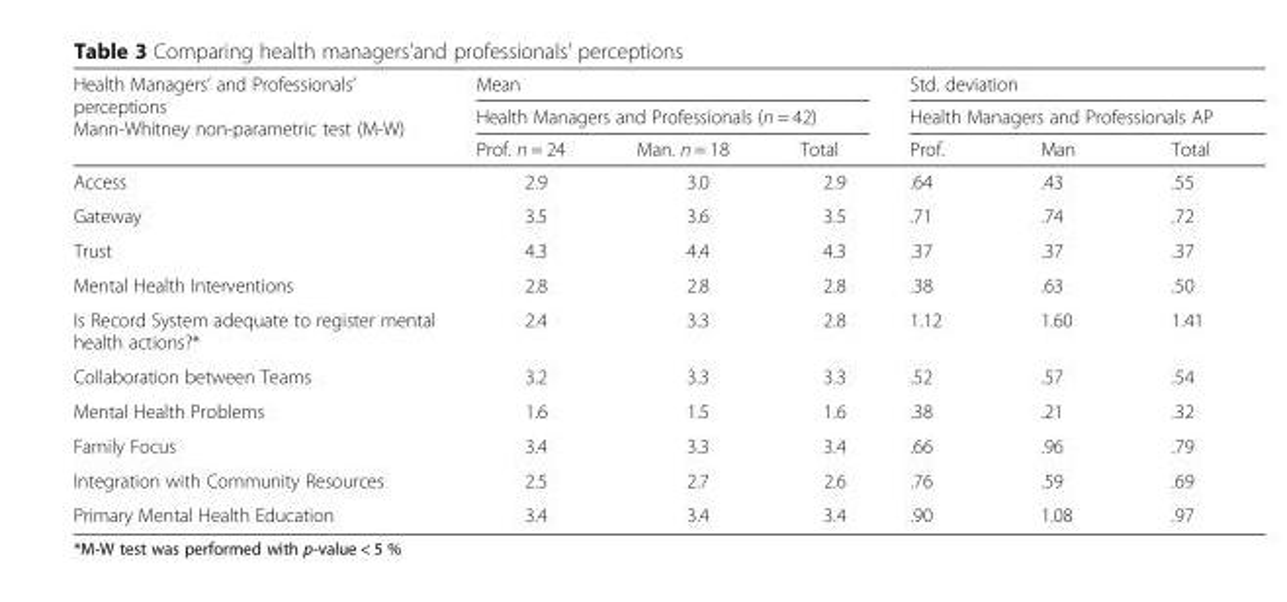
<table><thead><tr><td rowspan="3">Health Managers’ and Professionals’ perceptions Mann-Whitney non-parametric test (M-W)</td><td rowspan="2" colspan="3">Mean Health Managers and Professionals (n = 42)</td><td rowspan="2" colspan="3">Std. deviation Health Managers and Professionals AP</td></tr><tr></tr><tr><td>Prof. n = 24</td><td>Man. n = 18</td><td>Total</td><td>Prof.</td><td>Man</td><td>Total</td></tr></thead><tbody><tr><td>Access</td><td>2.9</td><td>3.0</td><td>2.9</td><td>.64</td><td>.43</td><td>.55</td></tr><tr><td>Gateway</td><td>3.5</td><td>3.6</td><td>3.5</td><td>.71</td><td>.74</td><td>.72</td></tr><tr><td>Trust</td><td>4.3</td><td>4.4</td><td>4.3</td><td>.37</td><td>.37</td><td>.37</td></tr><tr><td>Mental Health Interventions</td><td>2.8</td><td>2.8</td><td>2.8</td><td>.38</td><td>.63</td><td>.50</td></tr><tr><td>Is Record System adequate to register mental health actions?*</td><td>2.4</td><td>3.3</td><td>2.8</td><td>1.12</td><td>1.60</td><td>1.41</td></tr><tr><td>Collaboration between Teams</td><td>3.2</td><td>3.3</td><td>3.3</td><td>.52</td><td>.57</td><td>.54</td></tr><tr><td>Mental Health Problems</td><td>1.6</td><td>1.5</td><td>1.6</td><td>.38</td><td>.21</td><td>.32</td></tr><tr><td>Family Focus</td><td>3.4</td><td>3.3</td><td>3.4</td><td>.66</td><td>.96</td><td>.79</td></tr><tr><td>Integration with Community Resources</td><td>2.5</td><td>2.7</td><td>2.6</td><td>.76</td><td>.59</td><td>.69</td></tr><tr><td>Primary Mental Health Education</td><td>3.4</td><td>3.4</td><td>3.4</td><td>.90</td><td>1.08</td><td>.97</td></tr></tbody></table>